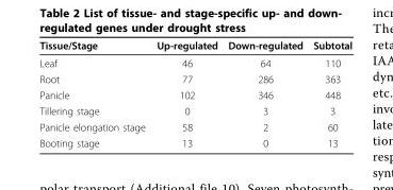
<table><thead><tr><td>Tissue/Stage</td><td>Up-regulated</td><td>Down-regulated</td><td>Subtotal</td></tr></thead><tbody><tr><td>Leaf</td><td>46</td><td>64</td><td>110</td></tr><tr><td>Root</td><td>77</td><td>286</td><td>363</td></tr><tr><td>Panicle</td><td>102</td><td>346</td><td>448</td></tr><tr><td>Tillering stage</td><td>0</td><td>3</td><td>3</td></tr><tr><td>Panicle elongation stage</td><td>58</td><td>2</td><td>60</td></tr><tr><td>Booting stage</td><td>13</td><td>0</td><td>13</td></tr></tbody></table>